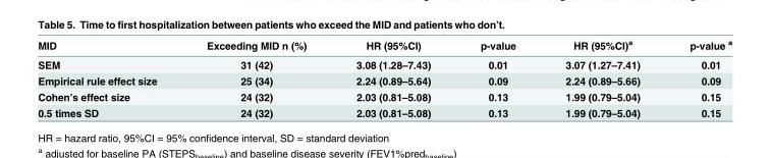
<table><thead><tr><td>MID</td><td>Exceeding MID n (%)</td><td>HR (95%CI)</td><td>p-value</td><td>HR (95%CI)<sup>a</sup></td><td>p-value <sup>a</sup></td></tr></thead><tbody><tr><td>SEM</td><td>31 (42)</td><td>3.08 (1.28–7.43)</td><td>0.01</td><td>3.07 (1.27–7.41)</td><td>0.01</td></tr><tr><td>Empirical rule effect size</td><td>25 (34)</td><td>2.24 (0.89–5.64)</td><td>0.09</td><td>2.24 (0.89–5.66)</td><td>0.09</td></tr><tr><td>Cohen’s effect size</td><td>24 (32)</td><td>2.03 (0.81–5.08)</td><td>0.13</td><td>1.99 (0.79–5.04)</td><td>0.15</td></tr><tr><td>0.5 times SD</td><td>24 (32)</td><td>2.03 (0.81–5.08)</td><td>0.13</td><td>1.99 (0.79–5.04)</td><td>0.15</td></tr></tbody></table>